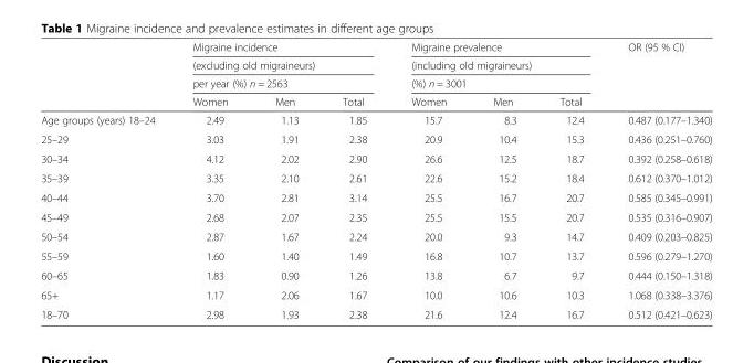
<table><thead><tr><td rowspan="4"></td><td rowspan="3" colspan="3">Migraine incidence (excluding old migraineurs) per year (%) n = 2563</td><td rowspan="3" colspan="3">Migraine prevalence (including old migraineurs) (%) n = 3001</td><td rowspan="4">OR (95 % CI)</td></tr><tr></tr><tr></tr><tr><td>Women</td><td>Men</td><td>Total</td><td>Women</td><td>Men</td><td>Total</td></tr></thead><tbody><tr><td>Age groups (years) 18–24</td><td>2.49</td><td>1.13</td><td>1.85</td><td>15.7</td><td>8.3</td><td>12.4</td><td>0.487 (0.177–1.340)</td></tr><tr><td>25–29</td><td>3.03</td><td>1.91</td><td>2.38</td><td>20.9</td><td>10.4</td><td>15.3</td><td>0.436 (0.251–0.760)</td></tr><tr><td>30–34</td><td>4.12</td><td>2.02</td><td>2.90</td><td>26.6</td><td>12.5</td><td>18.7</td><td>0.392 (0.258–0.618)</td></tr><tr><td>35–39</td><td>3.35</td><td>2.10</td><td>2.61</td><td>22.6</td><td>15.2</td><td>18.4</td><td>0.612 (0.370–1.012)</td></tr><tr><td>40–44</td><td>3.70</td><td>2.81</td><td>3.14</td><td>25.5</td><td>16.7</td><td>20.7</td><td>0.585 (0.345–0.991)</td></tr><tr><td>45–49</td><td>2.68</td><td>2.07</td><td>2.35</td><td>25.5</td><td>15.5</td><td>20.7</td><td>0.535 (0.316–0.907)</td></tr><tr><td>50–54</td><td>2.87</td><td>1.67</td><td>2.24</td><td>20.0</td><td>9.3</td><td>14.7</td><td>0.409 (0.203–0.825)</td></tr><tr><td>55–59</td><td>1.60</td><td>1.40</td><td>1.49</td><td>16.8</td><td>10.7</td><td>13.7</td><td>0.596 (0.279–1.270)</td></tr><tr><td>60–65</td><td>1.83</td><td>0.90</td><td>1.26</td><td>13.8</td><td>6.7</td><td>9.7</td><td>0.444 (0.150–1.318)</td></tr><tr><td>65+</td><td>1.17</td><td>2.06</td><td>1.67</td><td>10.0</td><td>10.6</td><td>10.3</td><td>1.068 (0.338–3.376)</td></tr><tr><td>18–70</td><td>2.98</td><td>1.93</td><td>2.38</td><td>21.6</td><td>12.4</td><td>16.7</td><td>0.512 (0.421–0.623)</td></tr></tbody></table>